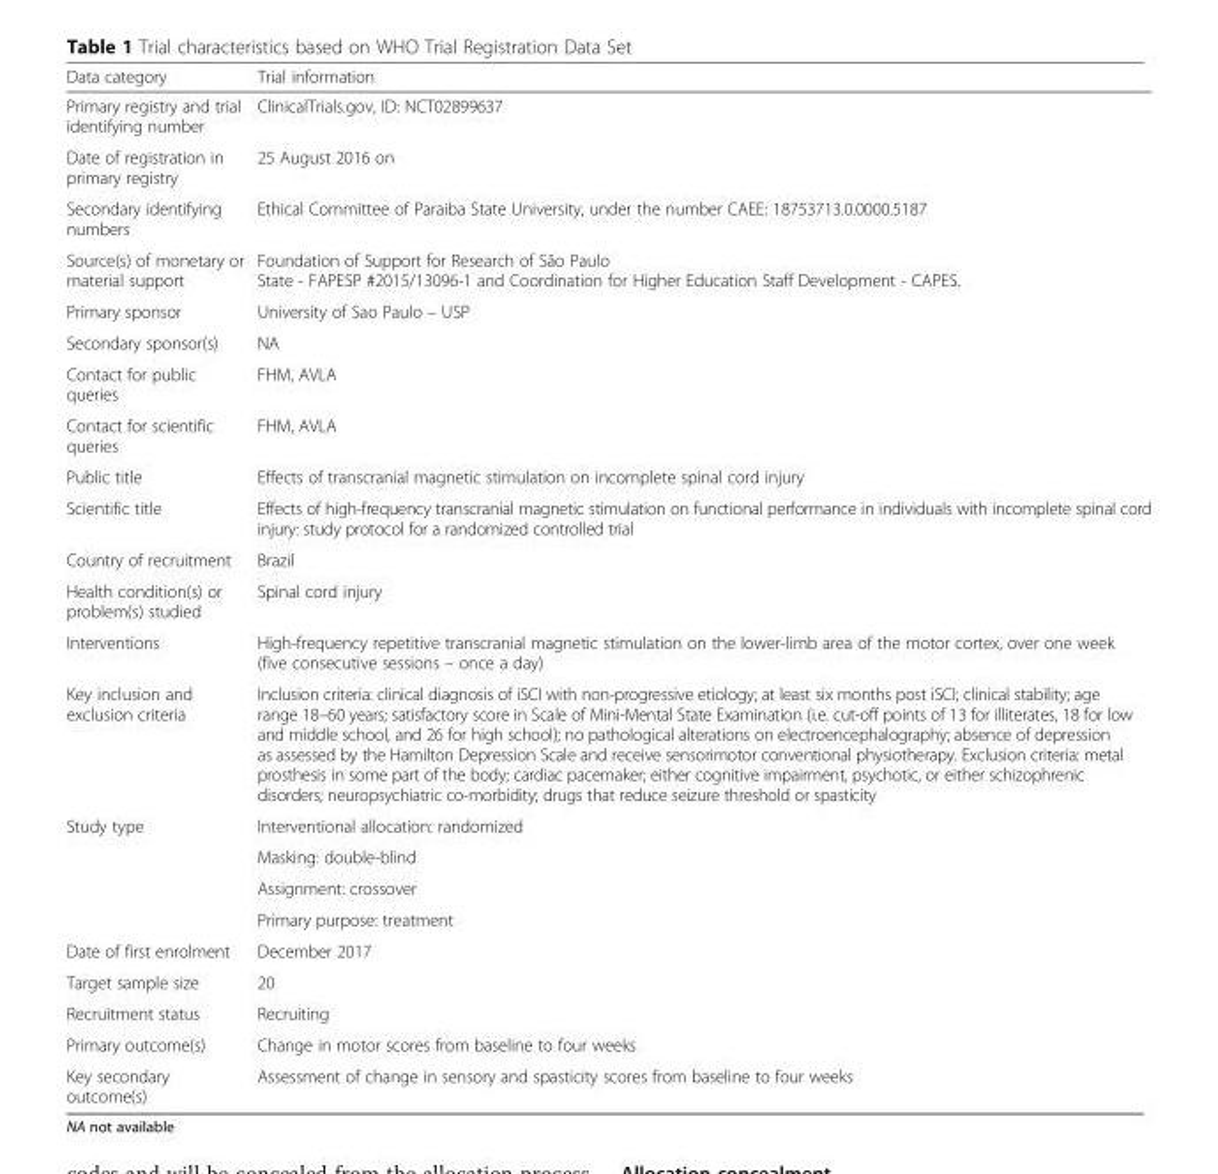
<table><thead><tr><td>Data category</td><td>Trial information</td></tr></thead><tbody><tr><td>Primary registry and trial identifying number</td><td>ClinicalTrials.gov, ID: NCT02899637</td></tr><tr><td>Date of registration in primary registry</td><td>25 August 2016 on</td></tr><tr><td>Secondary identifying numbers</td><td>Ethical Committee of Paraiba State University, under the number CAEE: 18753713.0.0000.5187</td></tr><tr><td>Source(s) of monetary or material support</td><td>Foundation of Support for Research of São Paulo State - FAPESP #2015/13096-1 and Coordination for Higher Education Staff Development - CAPES.</td></tr><tr><td>Primary sponsor</td><td>University of Sao Paulo – USP</td></tr><tr><td>Secondary sponsor(s)</td><td>NA</td></tr><tr><td>Contact for public queries</td><td>FHM, AVLA</td></tr><tr><td>Contact for scientific queries</td><td>FHM, AVLA</td></tr><tr><td>Public title</td><td>Effects of transcranial magnetic stimulation on incomplete spinal cord injury</td></tr><tr><td>Scientific title</td><td>Effects of high-frequency transcranial magnetic stimulation on functional performance in individuals with incomplete spinal cord injury: study protocol for a randomized controlled trial</td></tr><tr><td>Country of recruitment</td><td>Brazil</td></tr><tr><td>Health condition(s) or problem(s) studied</td><td>Spinal cord injury</td></tr><tr><td>Interventions</td><td>High-frequency repetitive transcranial magnetic stimulation on the lower-limb area of the motor cortex, over one week (five consecutive sessions – once a day)</td></tr><tr><td>Key inclusion and exclusion criteria</td><td>Inclusion criteria: clinical diagnosis of iSCI with non-progressive etiology; at least six months post iSCI; clinical stability; age range 18–60 years; satisfactory score in Scale of Mini-Mental State Examination (i.e. cut-off points of 13 for illiterates, 18 for low and middle school, and 26 for high school); no pathological alterations on electroencephalography; absence of depression as assessed by the Hamilton Depression Scale and receive sensorimotor conventional physiotherapy. Exclusion criteria: metal prosthesis in some part of the body; cardiac pacemaker; either cognitive impairment, psychotic, or either schizophrenic disorders; neuropsychiatric co-morbidity; drugs that reduce seizure threshold or spasticity</td></tr><tr><td rowspan="4">Study type</td><td>Interventional allocation: randomized</td></tr><tr><td>Masking: double-blind</td></tr><tr><td>Assignment: crossover</td></tr><tr><td>Primary purpose: treatment</td></tr><tr><td>Date of first enrolment</td><td>December 2017</td></tr><tr><td>Target sample size</td><td>20</td></tr><tr><td>Recruitment status</td><td>Recruiting</td></tr><tr><td>Primary outcome(s)</td><td>Change in motor scores from baseline to four weeks</td></tr><tr><td>Key secondary outcome(s)</td><td>Assessment of change in sensory and spasticity scores from baseline to four weeks</td></tr></tbody></table>